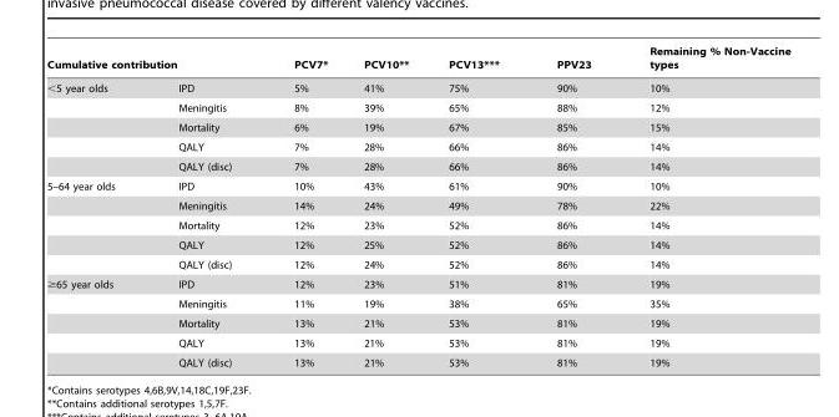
<table><thead><tr><td colspan="2">Cumulative contribution</td><td rowspan="2">PCV7* 5%</td><td rowspan="2">PCV10** 41%</td><td rowspan="2">PCV13*** 75%</td><td rowspan="2">PPV23 90%</td><td rowspan="2">Remaining % Non-Vaccine types 10%</td></tr><tr><td>&lt;5 year olds</td><td>IPD</td></tr></thead><tbody><tr><td></td><td>Meningitis</td><td>8%</td><td>39%</td><td>65%</td><td>88%</td><td>12%</td></tr><tr><td></td><td>Mortality</td><td>6%</td><td>19%</td><td>67%</td><td>85%</td><td>15%</td></tr><tr><td></td><td>QALY</td><td>7%</td><td>28%</td><td>66%</td><td>86%</td><td>14%</td></tr><tr><td></td><td>QALY (disc)</td><td>7%</td><td>28%</td><td>66%</td><td>86%</td><td>14%</td></tr><tr><td rowspan="5">5–64 year olds</td><td>IPD</td><td>10%</td><td>43%</td><td>61%</td><td>90%</td><td>10%</td></tr><tr><td>Meningitis</td><td>14%</td><td>24%</td><td>49%</td><td>78%</td><td>22%</td></tr><tr><td>Mortality</td><td>12%</td><td>23%</td><td>52%</td><td>86%</td><td>14%</td></tr><tr><td>QALY</td><td>12%</td><td>25%</td><td>52%</td><td>86%</td><td>14%</td></tr><tr><td>QALY (disc)</td><td>12%</td><td>24%</td><td>52%</td><td>86%</td><td>14%</td></tr><tr><td rowspan="5">≥65 year olds</td><td>IPD</td><td>12%</td><td>23%</td><td>51%</td><td>81%</td><td>19%</td></tr><tr><td>Meningitis</td><td>11%</td><td>19%</td><td>38%</td><td>65%</td><td>35%</td></tr><tr><td>Mortality</td><td>13%</td><td>21%</td><td>53%</td><td>81%</td><td>19%</td></tr><tr><td>QALY</td><td>13%</td><td>21%</td><td>53%</td><td>81%</td><td>19%</td></tr><tr><td>QALY (disc)</td><td>13%</td><td>21%</td><td>53%</td><td>81%</td><td>19%</td></tr></tbody></table>